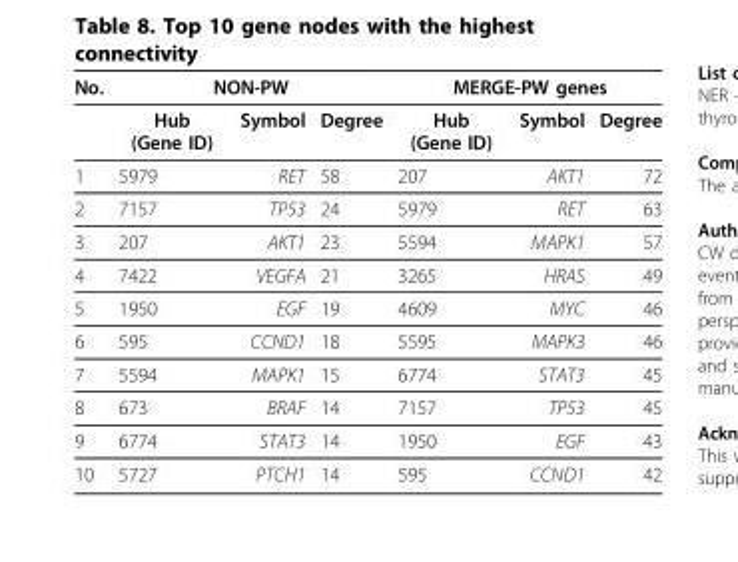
<table><thead><tr><td rowspan="2">No.</td><td colspan="3">NON-PW</td><td colspan="3">MERGE-PW genes</td></tr><tr><td>Hub (Gene ID)</td><td>Symbol</td><td>Degree</td><td>Hub (Gene ID)</td><td>Symbol</td><td>Degree</td></tr></thead><tbody><tr><td>1</td><td>5979</td><td>RET</td><td>58</td><td>207</td><td>AKT1</td><td>72</td></tr><tr><td>2</td><td>7157</td><td>TP53</td><td>24</td><td>5979</td><td>RET</td><td>63</td></tr><tr><td>3</td><td>207</td><td>AKT1</td><td>23</td><td>5594</td><td>MAPK1</td><td>57</td></tr><tr><td>4</td><td>7422</td><td>VEGFA</td><td>21</td><td>3265</td><td>HRAS</td><td>49</td></tr><tr><td>5</td><td>1950</td><td>EGF</td><td>19</td><td>4609</td><td>MYC</td><td>46</td></tr><tr><td>6</td><td>595</td><td>CCND1</td><td>18</td><td>5595</td><td>MAPK3</td><td>46</td></tr><tr><td>7</td><td>5594</td><td>MAPK1</td><td>15</td><td>6774</td><td>STAT3</td><td>45</td></tr><tr><td>8</td><td>673</td><td>BRAF</td><td>14</td><td>7157</td><td>TP53</td><td>45</td></tr><tr><td>9</td><td>6774</td><td>STAT3</td><td>14</td><td>1950</td><td>EGF</td><td>43</td></tr><tr><td>10</td><td>5727</td><td>PTCH1</td><td>14</td><td>595</td><td>CCND1</td><td>42</td></tr></tbody></table>